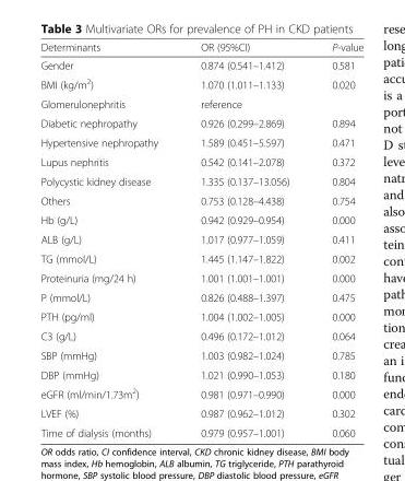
<table><thead><tr><td>Determinants</td><td>OR (95%CI)</td><td>P-value</td></tr></thead><tbody><tr><td>Gender</td><td>0.874 (0.541–1.412)</td><td>0.581</td></tr><tr><td>BMI (kg/m<sup>2</sup>)</td><td>1.070 (1.011–1.133)</td><td>0.020</td></tr><tr><td>Glomerulonephritis</td><td>reference</td><td></td></tr><tr><td>Diabetic nephropathy</td><td>0.926 (0.299–2.869)</td><td>0.894</td></tr><tr><td>Hypertensive nephropathy</td><td>1.589 (0.451–5.597)</td><td>0.471</td></tr><tr><td>Lupus nephritis</td><td>0.542 (0.141–2.078)</td><td>0.372</td></tr><tr><td>Polycystic kidney disease</td><td>1.335 (0.137–13.056)</td><td>0.804</td></tr><tr><td>Others</td><td>0.753 (0.128–4.438)</td><td>0.754</td></tr><tr><td>Hb (g/L)</td><td>0.942 (0.929–0.954)</td><td>0.000</td></tr><tr><td>ALB (g/L)</td><td>1.017 (0.977–1.059)</td><td>0.411</td></tr><tr><td>TG (mmol/L)</td><td>1.445 (1.147–1.822)</td><td>0.002</td></tr><tr><td>Proteinuria (mg/24 h)</td><td>1.001 (1.001–1.001)</td><td>0.000</td></tr><tr><td>P (mmol/L)</td><td>0.826 (0.488–1.397)</td><td>0.475</td></tr><tr><td>PTH (pg/ml)</td><td>1.004 (1.002–1.005)</td><td>0.000</td></tr><tr><td>C3 (g/L)</td><td>0.496 (0.172–1.012)</td><td>0.064</td></tr><tr><td>SBP (mmHg)</td><td>1.003 (0.982–1.024)</td><td>0.785</td></tr><tr><td>DBP (mmHg)</td><td>1.021 (0.990–1.053)</td><td>0.180</td></tr><tr><td>eGFR (ml/min/1.73m<sup>2</sup>)</td><td>0.981 (0.971–0.990)</td><td>0.000</td></tr><tr><td>LVEF (%)</td><td>0.987 (0.962–1.012)</td><td>0.302</td></tr><tr><td>Time of dialysis (months)</td><td>0.979 (0.957–1.001)</td><td>0.060</td></tr></tbody></table>